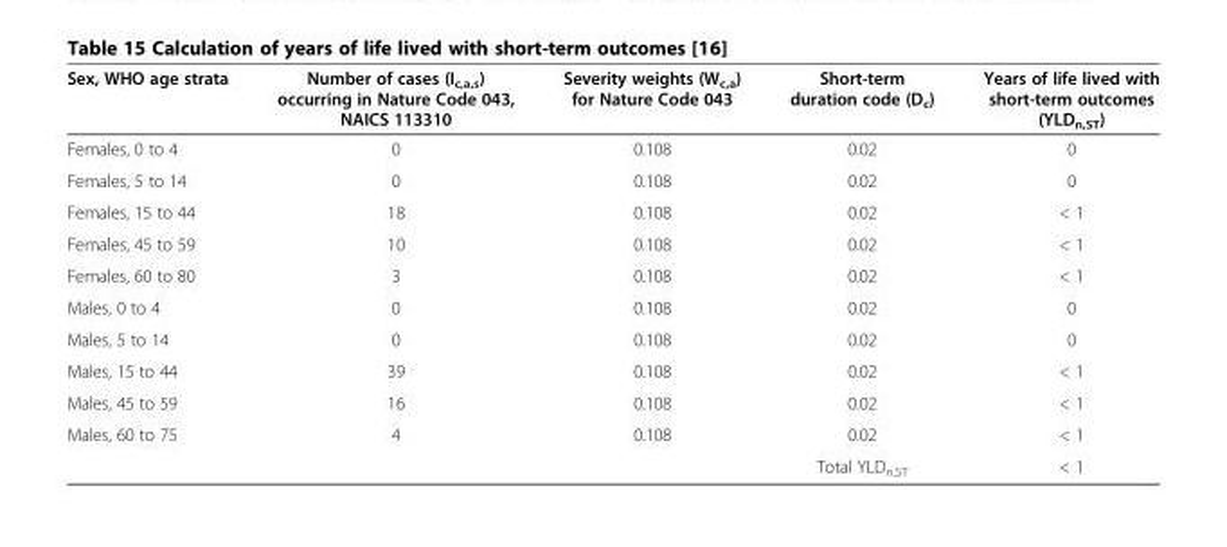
<table><thead><tr><td>Sex, WHO age strata</td><td>Number of cases (I<sub>c,a,s</sub>) occurring in Nature Code 043, NAICS 113310</td><td>Severity weights (W<sub>c,a</sub>) for Nature Code 043</td><td>Short-term duration code (D<sub>c</sub>)</td><td>Years of life lived with short-term outcomes (YLD<sub>n,ST</sub>)</td></tr></thead><tbody><tr><td>Females, 0 to 4</td><td>0</td><td>0.108</td><td>0.02</td><td>0</td></tr><tr><td>Females, 5 to 14</td><td>0</td><td>0.108</td><td>0.02</td><td>0</td></tr><tr><td>Females, 15 to 44</td><td>18</td><td>0.108</td><td>0.02</td><td>&lt; 1</td></tr><tr><td>Females, 45 to 59</td><td>10</td><td>0.108</td><td>0.02</td><td>&lt; 1</td></tr><tr><td>Females, 60 to 80</td><td>3</td><td>0.108</td><td>0.02</td><td>&lt; 1</td></tr><tr><td>Males, 0 to 4</td><td>0</td><td>0.108</td><td>0.02</td><td>0</td></tr><tr><td>Males, 5 to 14</td><td>0</td><td>0.108</td><td>0.02</td><td>0</td></tr><tr><td>Males, 15 to 44</td><td>39</td><td>0.108</td><td>0.02</td><td>&lt; 1</td></tr><tr><td>Males, 45 to 59</td><td>16</td><td>0.108</td><td>0.02</td><td>&lt; 1</td></tr><tr><td rowspan="2">Males, 60 to 75</td><td>4</td><td>0.108</td><td>0.02</td><td>&lt; 1</td></tr><tr><td></td><td></td><td>Total YLD<sub>n,ST</sub></td><td>&lt; 1</td></tr></tbody></table>